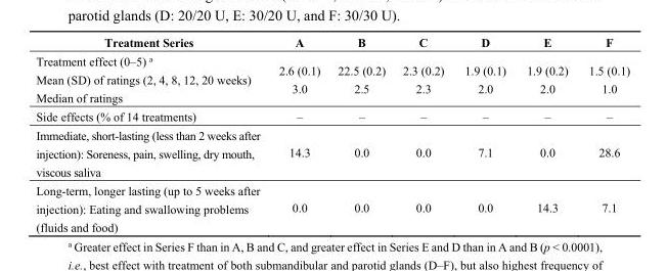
<table><thead><tr><td>Treatment Series</td><td>A</td><td>B</td><td>C</td><td>D</td><td>E</td><td>F</td></tr></thead><tbody><tr><td>Treatment effect (0–5) <sup>a</sup> Mean (SD) of ratings (2, 4, 8, 12, 20 weeks) Median of ratings</td><td>2.6 (0.1) 3.0</td><td>22.5 (0.2) 2.5</td><td>2.3 (0.2) 2.3</td><td>1.9 (0.1) 2.0</td><td>1.9 (0.2) 2.0</td><td>1.5 (0.1) 1.0</td></tr><tr><td>Side effects (% of 14 treatments)</td><td>–</td><td>–</td><td>–</td><td>–</td><td>–</td><td>–</td></tr><tr><td>Immediate, short-lasting (less than 2 weeks after injection): Soreness, pain, swelling, dry mouth, viscous saliva</td><td>14.3</td><td>0.0</td><td>0.0</td><td>7.1</td><td>0.0</td><td>28.6</td></tr><tr><td>Long-term, longer lasting (up to 5 weeks after injection): Eating and swallowing problems (fluids and food)</td><td>0.0</td><td>0.0</td><td>0.0</td><td>0.0</td><td>14.3</td><td>7.1</td></tr></tbody></table>